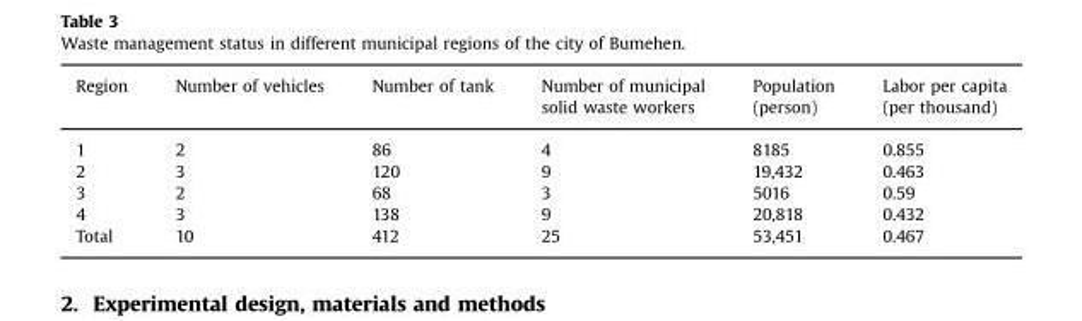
<table><thead><tr><td rowspan="2">Region</td><td rowspan="2">Number of vehicles</td><td rowspan="2">Number of tank</td><td rowspan="2">Number of municipal solid waste workers</td><td rowspan="2">Population (person)</td><td rowspan="2">Labor per capita (per thousand)</td></tr><tr></tr></thead><tbody><tr><td>1</td><td>2</td><td>86</td><td>4</td><td>8185</td><td>0.855</td></tr><tr><td>2</td><td>3</td><td>120</td><td>9</td><td>19,432</td><td>0.463</td></tr><tr><td>3</td><td>2</td><td>68</td><td>3</td><td>5016</td><td>0.59</td></tr><tr><td>4</td><td>3</td><td>138</td><td>9</td><td>20,818</td><td>0.432</td></tr><tr><td>Total</td><td>10</td><td>412</td><td>25</td><td>53,451</td><td>0.467</td></tr></tbody></table>